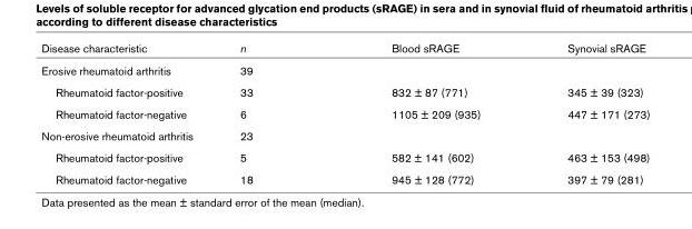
<table><thead><tr><td>Disease characteristic</td><td>n</td><td>Blood sRAGE</td><td>Synovial sRAGE</td></tr></thead><tbody><tr><td>Erosive rheumatoid arthritis</td><td>39</td><td></td><td></td></tr><tr><td>Rheumatoid factor-positive</td><td>33</td><td>832 ± 87 (771)</td><td>345 ± 39 (323)</td></tr><tr><td>Rheumatoid factor-negative</td><td>6</td><td>1105 ± 209 (935)</td><td>447 ± 171 (273)</td></tr><tr><td>Non-erosive rheumatoid arthritis</td><td>23</td><td></td><td></td></tr><tr><td>Rheumatoid factor-positive</td><td>5</td><td>582 ± 141 (602)</td><td>463 ± 153 (498)</td></tr><tr><td>Rheumatoid factor-negative</td><td>18</td><td>945 ± 128 (772)</td><td>397 ± 79 (281)</td></tr></tbody></table>